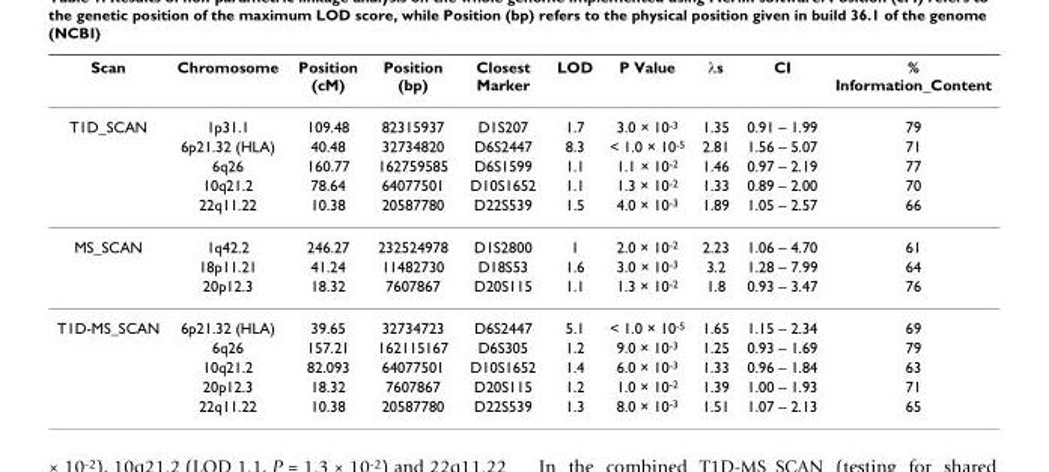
<table><thead><tr><td>Scan</td><td>Chromosome</td><td>Position (cM)</td><td>Position (bp)</td><td>Closest Marker</td><td>LOD</td><td>P Value</td><td>λs</td><td>CI</td><td>% Information_Content</td></tr></thead><tbody><tr><td rowspan="5">T1D_SCAN</td><td>1p31.1</td><td>109.48</td><td>82315937</td><td>D1S207</td><td>1.7</td><td>3.0 × 10<sup>-3</sup></td><td>1.35</td><td>0.91 – 1.99</td><td>79</td></tr><tr><td>6p21.32 (HLA)</td><td>40.48</td><td>32734820</td><td>D6S2447</td><td>8.3</td><td>&lt; 1.0 × 10<sup>-5</sup></td><td>2.81</td><td>1.56 – 5.07</td><td>71</td></tr><tr><td>6q26</td><td>160.77</td><td>162759585</td><td>D6S1599</td><td>1.1</td><td>1.1 × 10<sup>-2</sup></td><td>1.46</td><td>0.97 – 2.19</td><td>77</td></tr><tr><td>10q21.2</td><td>78.64</td><td>64077501</td><td>D10S1652</td><td>1.1</td><td>1.3 × 10<sup>-2</sup></td><td>1.33</td><td>0.89 – 2.00</td><td>70</td></tr><tr><td>22q11.22</td><td>10.38</td><td>20587780</td><td>D22S539</td><td>1.5</td><td>4.0 × 10<sup>-3</sup></td><td>1.89</td><td>1.05 – 2.57</td><td>66</td></tr><tr><td rowspan="3">MS_SCAN</td><td>1q42.2</td><td>246.27</td><td>232524978</td><td>D1S2800</td><td>1</td><td>2.0 × 10<sup>-2</sup></td><td>2.23</td><td>1.06 – 4.70</td><td>61</td></tr><tr><td>18p11.21</td><td>41.24</td><td>11482730</td><td>D18S53</td><td>1.6</td><td>3.0 × 10<sup>-3</sup></td><td>3.2</td><td>1.28 – 7.99</td><td>64</td></tr><tr><td>20p12.3</td><td>18.32</td><td>7607867</td><td>D20S115</td><td>1.1</td><td>1.3 × 10<sup>-2</sup></td><td>1.8</td><td>0.93 – 3.47</td><td>76</td></tr><tr><td rowspan="5">T1D-MS_SCAN</td><td>6p21.32 (HLA)</td><td>39.65</td><td>32734723</td><td>D6S2447</td><td>5.1</td><td>&lt; 1.0 × 10<sup>-5</sup></td><td>1.65</td><td>1.15 – 2.34</td><td>69</td></tr><tr><td>6q26</td><td>157.21</td><td>162115167</td><td>D6S305</td><td>1.2</td><td>9.0 × 10<sup>-3</sup></td><td>1.25</td><td>0.93 – 1.69</td><td>79</td></tr><tr><td>10q21.2</td><td>82.093</td><td>64077501</td><td>D10S1652</td><td>1.4</td><td>6.0 × 10<sup>-3</sup></td><td>1.33</td><td>0.96 – 1.84</td><td>63</td></tr><tr><td>20p12.3</td><td>18.32</td><td>7607867</td><td>D20S115</td><td>1.2</td><td>1.0 × 10<sup>-2</sup></td><td>1.39</td><td>1.00 – 1.93</td><td>71</td></tr><tr><td>22q11.22</td><td>10.38</td><td>20587780</td><td>D22S539</td><td>1.3</td><td>8.0 × 10<sup>-3</sup></td><td>1.51</td><td>1.07 – 2.13</td><td>65</td></tr></tbody></table>